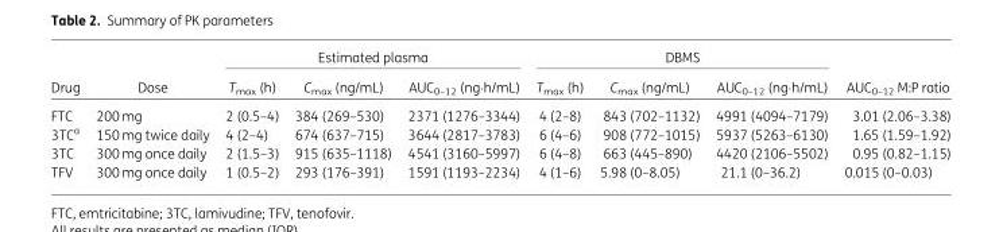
<table><thead><tr><td rowspan="2">Drug</td><td rowspan="2">Dose</td><td colspan="3">Estimated plasma</td><td colspan="3">DBMS</td><td rowspan="2">AUC<sub>0–12</sub> M:P ratio</td></tr><tr><td>T<sub>max</sub> (h)</td><td>C<sub>max</sub> (ng/mL)</td><td>AUC<sub>0–12</sub> (ng·h/mL)</td><td>T<sub>max</sub> (h)</td><td>C<sub>max</sub> (ng/mL)</td><td>AUC<sub>0–12</sub> (ng·h/mL)</td></tr></thead><tbody><tr><td>FTC</td><td>200 mg</td><td>2 (0.5–4)</td><td>384 (269–530)</td><td>2371 (1276–3344)</td><td>4 (2–8)</td><td>843 (702–1132)</td><td>4991 (4094–7179)</td><td>3.01 (2.06–3.38)</td></tr><tr><td>3TC<sup>a</sup></td><td>150 mg twice daily</td><td>4 (2–4)</td><td>674 (637–715)</td><td>3644 (2817–3783)</td><td>6 (4–6)</td><td>908 (772–1015)</td><td>5937 (5263–6130)</td><td>1.65 (1.59–1.92)</td></tr><tr><td>3TC</td><td>300 mg once daily</td><td>2 (1.5–3)</td><td>915 (635–1118)</td><td>4541 (3160–5997)</td><td>6 (4–8)</td><td>663 (445–890)</td><td>4420 (2106–5502)</td><td>0.95 (0.82–1.15)</td></tr><tr><td>TFV</td><td>300 mg once daily</td><td>1 (0.5–2)</td><td>293 (176–391)</td><td>1591 (1193–2234)</td><td>4 (1–6)</td><td>5.98 (0–8.05)</td><td>21.1 (0–36.2)</td><td>0.015 (0–0.03)</td></tr></tbody></table>